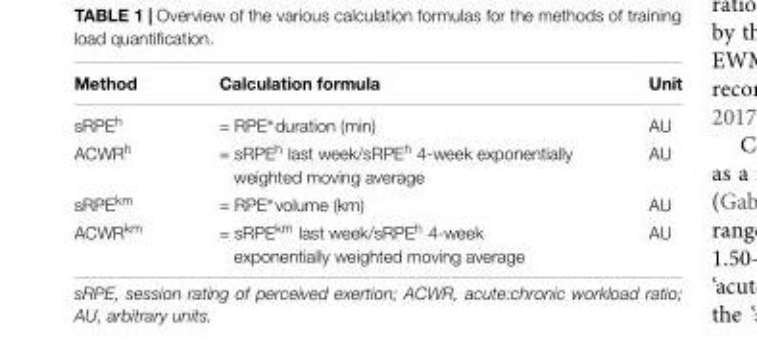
<table><thead><tr><td>Method</td><td>Calculation formula</td><td>Unit</td></tr></thead><tbody><tr><td>sRPE<sup>h</sup></td><td>= RPE∗duration (min)</td><td>AU</td></tr><tr><td>ACWR<sup>h</sup></td><td>= sRPE<sup>h</sup> last week/sRPE<sup>h</sup> 4-week exponentially weighted moving average</td><td>AU</td></tr><tr><td>sRPE<sup>km</sup></td><td>= RPE∗volume (km)</td><td>AU</td></tr><tr><td>ACWR<sup>km</sup></td><td>= sRPE<sup>km</sup> last week/sRPE<sup>h</sup> 4-week exponentially weighted moving average</td><td>AU</td></tr></tbody></table>